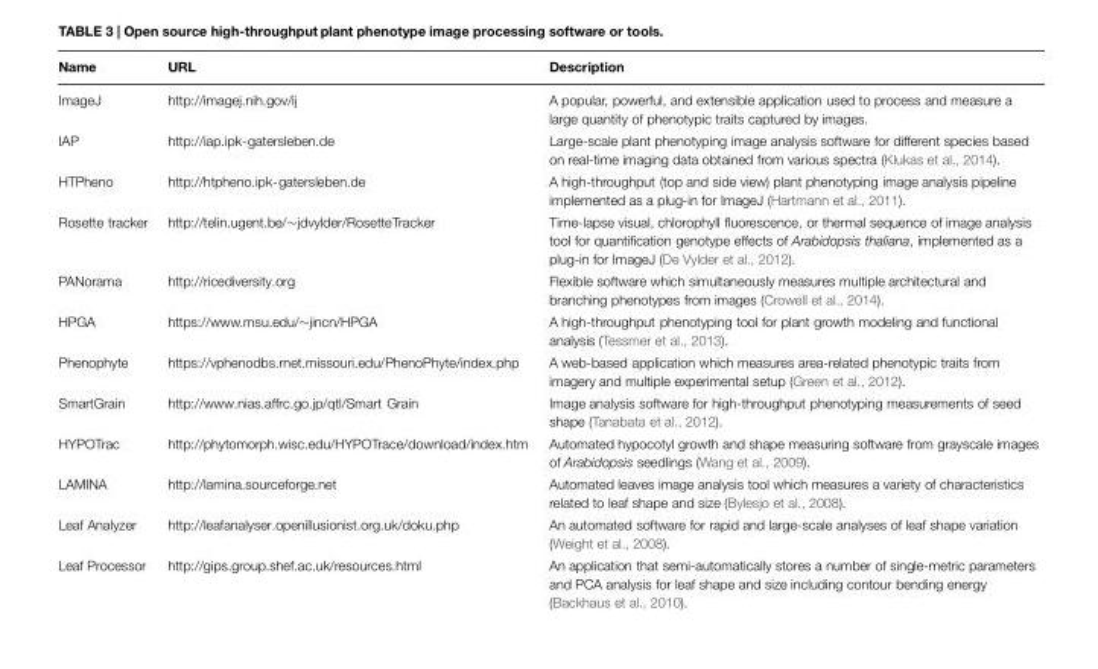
<table><thead><tr><td>Name</td><td>URL</td><td>Description</td></tr></thead><tbody><tr><td>ImageJ</td><td>http://imagej.nih.gov/ij</td><td>A popular, powerful, and extensible application used to process and measure a large quantity of phenotypic traits captured by images.</td></tr><tr><td>IAP</td><td>http://iap.ipk-gatersleben.de</td><td>Large-scale plant phenotyping image analysis software for different species based on real-time imaging data obtained from various spectra (Klukas et al., 2014).</td></tr><tr><td>HTPheno</td><td>http://htpheno.ipk-gatersleben.de</td><td>A high-throughput (top and side view) plant phenotyping image analysis pipeline implemented as a plug-in for ImageJ (Hartmann et al., 2011).</td></tr><tr><td>Rosette tracker</td><td>http://telin.ugent.be/∼jdvylder/RosetteTracker</td><td>Time-lapse visual, chlorophyll fluorescence, or thermal sequence of image analysis tool for quantification genotype effects of Arabidopsis thaliana, implemented as a plug-in for ImageJ (De Vylder et al., 2012).</td></tr><tr><td>PANorama</td><td>http://ricediversity.org</td><td>Flexible software which simultaneously measures multiple architectural and branching phenotypes from images (Crowell et al., 2014).</td></tr><tr><td>HPGA</td><td>https://www.msu.edu/∼jincn/HPGA</td><td>A high-throughput phenotyping tool for plant growth modeling and functional analysis (Tessmer et al., 2013).</td></tr><tr><td>Phenophyte</td><td>https://vphenodbs.rnet.missouri.edu/PhenoPhyte/index.php</td><td>A web-based application which measures area-related phenotypic traits from imagery and multiple experimental setup (Green et al., 2012).</td></tr><tr><td>SmartGrain</td><td>http://www.nias.affrc.go.jp/qtl/Smart Grain</td><td>Image analysis software for high-throughput phenotyping measurements of seed shape (Tanabata et al., 2012).</td></tr><tr><td>HYPOTrac</td><td>http://phytomorph.wisc.edu/HYPOTrace/download/index.htm</td><td>Automated hypocotyl growth and shape measuring software from grayscale images of Arabidopsis seedlings (Wang et al., 2009).</td></tr><tr><td>LAMINA</td><td>http://lamina.sourceforge.net</td><td>Automated leaves image analysis tool which measures a variety of characteristics related to leaf shape and size (Bylesjo et al., 2008).</td></tr><tr><td>Leaf Analyzer</td><td>http://leafanalyser.openillusionist.org.uk/doku.php</td><td>An automated software for rapid and large-scale analyses of leaf shape variation (Weight et al., 2008).</td></tr><tr><td>Leaf Processor</td><td>http://gips.group.shef.ac.uk/resources.html</td><td>An application that semi-automatically stores a number of single-metric parameters and PCA analysis for leaf shape and size including contour bending energy (Backhaus et al., 2010).</td></tr></tbody></table>